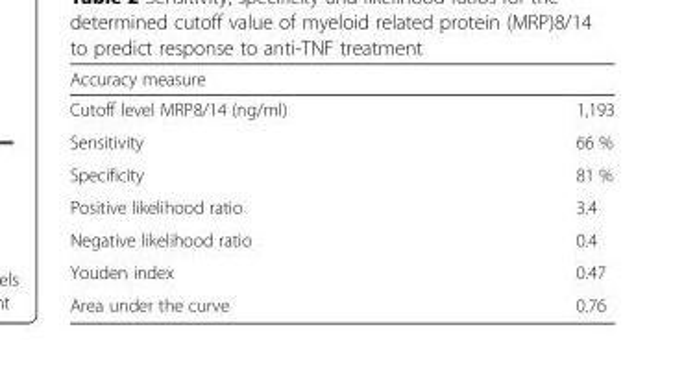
<table><thead><tr><td>Accuracy measure</td><td></td></tr></thead><tbody><tr><td>Cutoff level MRP8/14 (ng/ml)</td><td>1,193</td></tr><tr><td>Sensitivity</td><td>66 %</td></tr><tr><td>Specificity</td><td>81 %</td></tr><tr><td>Positive likelihood ratio</td><td>3.4</td></tr><tr><td>Negative likelihood ratio</td><td>0.4</td></tr><tr><td>Youden index</td><td>0.47</td></tr><tr><td>Area under the curve</td><td>0.76</td></tr></tbody></table>